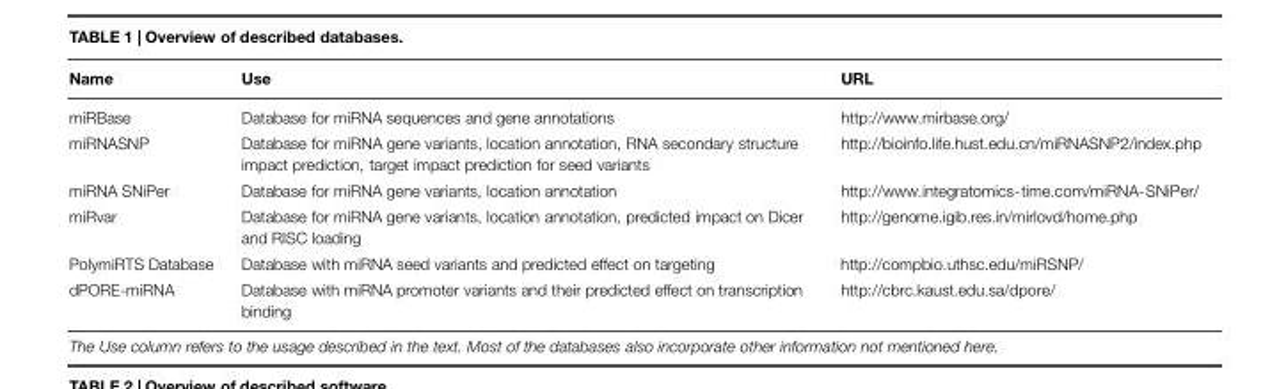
<table><thead><tr><td>Name</td><td>Use</td><td>URL</td></tr></thead><tbody><tr><td>miRBase</td><td>Database for miRNA sequences and gene annotations</td><td>http://www.mirbase.org/</td></tr><tr><td>miRNASNP</td><td>Database for miRNA gene variants, location annotation, RNA secondary structure impact prediction, target impact prediction for seed variants</td><td>http://bioinfo.life.hust.edu.cn/miRNASNP2/index.php</td></tr><tr><td>miRNA SNiPer</td><td>Database for miRNA gene variants, location annotation</td><td>http://www.integratomics-time.com/miRNA-SNiPer/</td></tr><tr><td>miRvar</td><td>Database for miRNA gene variants, location annotation, predicted impact on Dicer and RISC loading</td><td>http://genome.igib.res.in/mirlovd/home.php</td></tr><tr><td>PolymiRTS Database</td><td>Database with miRNA seed variants and predicted effect on targeting</td><td>http://compbio.uthsc.edu/miRSNP/</td></tr><tr><td>dPORE-miRNA</td><td>Database with miRNA promoter variants and their predicted effect on transcription binding</td><td>http://cbrc.kaust.edu.sa/dpore/</td></tr></tbody></table>